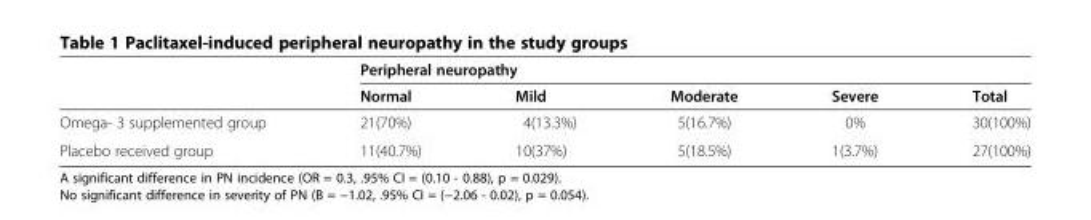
<table><thead><tr><td rowspan="2"></td><td colspan="5">Peripheral neuropathy</td></tr><tr><td>Normal</td><td>Mild</td><td>Moderate</td><td>Severe</td><td>Total</td></tr></thead><tbody><tr><td>Omega- 3 supplemented group</td><td>21(70%)</td><td>4(13.3%)</td><td>5(16.7%)</td><td>0%</td><td>30(100%)</td></tr><tr><td>Placebo received group</td><td>11(40.7%)</td><td>10(37%)</td><td>5(18.5%)</td><td>1(3.7%)</td><td>27(100%)</td></tr></tbody></table>